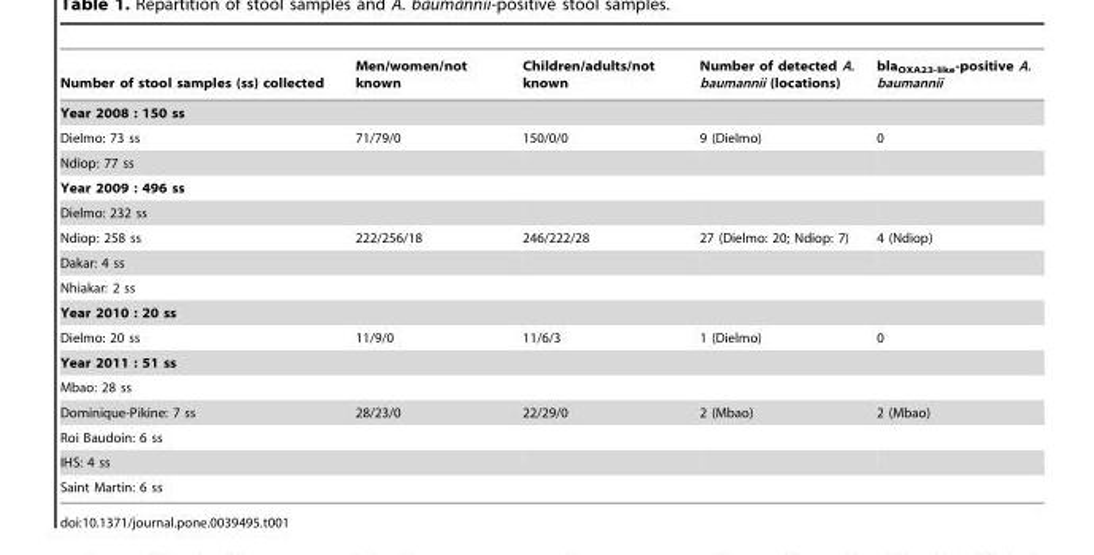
<table><thead><tr><td>Number of stool samples (ss) collected</td><td>Men/women/not known</td><td>Children/adults/not known</td><td>Number of detected A. baumannii (locations)</td><td>blaOXA23-like-positive A. baumannii</td></tr></thead><tbody><tr><td colspan="5">Year 2008 : 150 ss</td></tr><tr><td>Dielmo: 73 ss</td><td>71/79/0</td><td>150/0/0</td><td>9 (Dielmo)</td><td>0</td></tr><tr><td colspan="5">Ndiop: 77 ss</td></tr><tr><td colspan="5">Year 2009 : 496 ss</td></tr><tr><td colspan="5">Dielmo: 232 ss</td></tr><tr><td>Ndiop: 258 ss</td><td>222/256/18</td><td>246/222/28</td><td>27 (Dielmo: 20; Ndiop: 7)</td><td>4 (Ndiop)</td></tr><tr><td colspan="5">Dakar: 4 ss</td></tr><tr><td colspan="5">Nhiakar: 2 ss</td></tr><tr><td colspan="5">Year 2010 : 20 ss</td></tr><tr><td>Dielmo: 20 ss</td><td>11/9/0</td><td>11/6/3</td><td>1 (Dielmo)</td><td>0</td></tr><tr><td colspan="5">Year 2011 : 51 ss</td></tr><tr><td colspan="5">Mbao: 28 ss</td></tr><tr><td>Dominique-Pikine: 7 ss</td><td>28/23/0</td><td>22/29/0</td><td>2 (Mbao)</td><td>2 (Mbao)</td></tr><tr><td colspan="5">Roi Baudoin: 6 ss</td></tr><tr><td colspan="5">IHS: 4 ss</td></tr><tr><td>Saint Martin: 6 ss</td><td></td><td></td><td></td><td></td></tr></tbody></table>